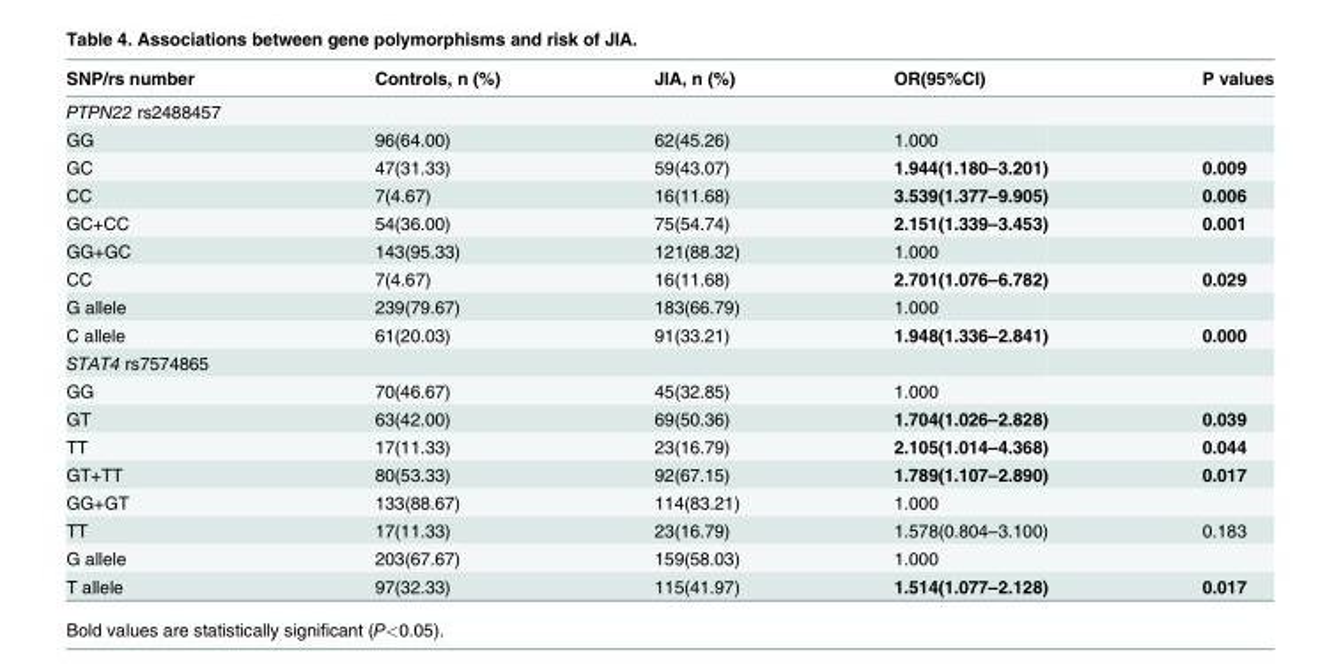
<table><thead><tr><td>SNP/rs number</td><td>Controls, n (%)</td><td>JIA, n (%)</td><td>OR(95%CI)</td><td>P values</td></tr></thead><tbody><tr><td colspan="5">PTPN22 rs2488457</td></tr><tr><td>GG</td><td>96(64.00)</td><td>62(45.26)</td><td>1.000</td><td></td></tr><tr><td>GC</td><td>47(31.33)</td><td>59(43.07)</td><td>1.944(1.180–3.201)</td><td>0.009</td></tr><tr><td>CC</td><td>7(4.67)</td><td>16(11.68)</td><td>3.539(1.377–9.905)</td><td>0.006</td></tr><tr><td>GC+CC</td><td>54(36.00)</td><td>75(54.74)</td><td>2.151(1.339–3.453)</td><td>0.001</td></tr><tr><td>GG+GC</td><td>143(95.33)</td><td>121(88.32)</td><td>1.000</td><td></td></tr><tr><td>CC</td><td>7(4.67)</td><td>16(11.68)</td><td>2.701(1.076–6.782)</td><td>0.029</td></tr><tr><td>G allele</td><td>239(79.67)</td><td>183(66.79)</td><td>1.000</td><td></td></tr><tr><td>C allele</td><td>61(20.03)</td><td>91(33.21)</td><td>1.948(1.336–2.841)</td><td>0.000</td></tr><tr><td colspan="5">STAT4 rs7574865</td></tr><tr><td>GG</td><td>70(46.67)</td><td>45(32.85)</td><td>1.000</td><td></td></tr><tr><td>GT</td><td>63(42.00)</td><td>69(50.36)</td><td>1.704(1.026–2.828)</td><td>0.039</td></tr><tr><td>TT</td><td>17(11.33)</td><td>23(16.79)</td><td>2.105(1.014–4.368)</td><td>0.044</td></tr><tr><td>GT+TT</td><td>80(53.33)</td><td>92(67.15)</td><td>1.789(1.107–2.890)</td><td>0.017</td></tr><tr><td>GG+GT</td><td>133(88.67)</td><td>114(83.21)</td><td>1.000</td><td></td></tr><tr><td>TT</td><td>17(11.33)</td><td>23(16.79)</td><td>1.578(0.804–3.100)</td><td>0.183</td></tr><tr><td>G allele</td><td>203(67.67)</td><td>159(58.03)</td><td>1.000</td><td></td></tr><tr><td>T allele</td><td>97(32.33)</td><td>115(41.97)</td><td>1.514(1.077–2.128)</td><td>0.017</td></tr></tbody></table>